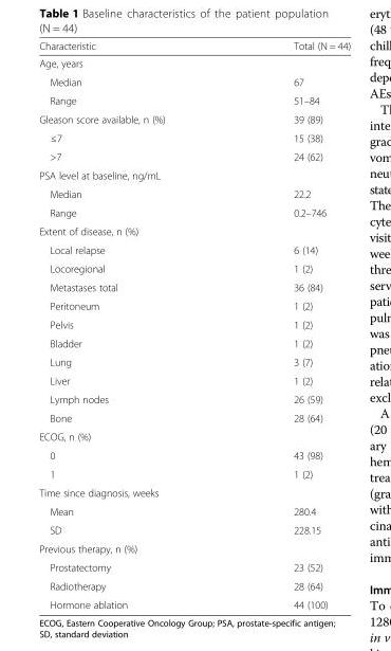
<table><thead><tr><td>Characteristic</td><td>Total (N = 44)</td></tr></thead><tbody><tr><td colspan="2">Age, years</td></tr><tr><td>Median</td><td>67</td></tr><tr><td>Range</td><td>51–84</td></tr><tr><td>Gleason score available, n (%)</td><td>39 (89)</td></tr><tr><td>≤7</td><td>15 (38)</td></tr><tr><td>&gt;7</td><td>24 (62)</td></tr><tr><td colspan="2">PSA level at baseline, ng/mL</td></tr><tr><td>Median</td><td>22.2</td></tr><tr><td>Range</td><td>0.2–746</td></tr><tr><td colspan="2">Extent of disease, n (%)</td></tr><tr><td>Local relapse</td><td>6 (14)</td></tr><tr><td>Locoregional</td><td>1 (2)</td></tr><tr><td>Metastases total</td><td>36 (84)</td></tr><tr><td>Peritoneum</td><td>1 (2)</td></tr><tr><td>Pelvis</td><td>1 (2)</td></tr><tr><td>Bladder</td><td>1 (2)</td></tr><tr><td>Lung</td><td>3 (7)</td></tr><tr><td>Liver</td><td>1 (2)</td></tr><tr><td>Lymph nodes</td><td>26 (59)</td></tr><tr><td>Bone</td><td>28 (64)</td></tr><tr><td colspan="2">ECOG, n (%)</td></tr><tr><td>0</td><td>43 (98)</td></tr><tr><td>1</td><td>1 (2)</td></tr><tr><td colspan="2">Time since diagnosis, weeks</td></tr><tr><td>Mean</td><td>280.4</td></tr><tr><td>SD</td><td>228.15</td></tr><tr><td colspan="2">Previous therapy, n (%)</td></tr><tr><td>Prostatectomy</td><td>23 (52)</td></tr><tr><td>Radiotherapy</td><td>28 (64)</td></tr><tr><td>Hormone ablation</td><td>44 (100)</td></tr></tbody></table>